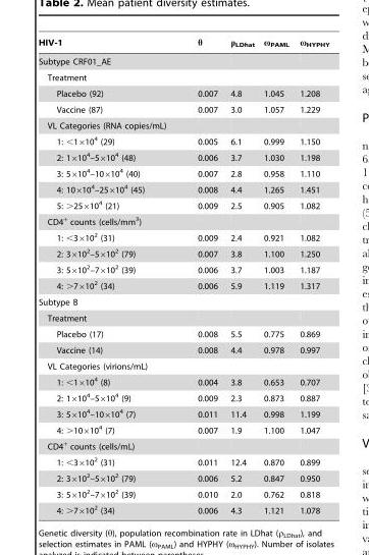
<table><thead><tr><td>HIV-1</td><td>θ</td><td>ρ<sub>LDhat</sub></td><td>ω<sub>PAML</sub></td><td>ω<sub>HYPHY</sub></td></tr></thead><tbody><tr><td colspan="5">Subtype CRF01_AE</td></tr><tr><td colspan="5">Treatment</td></tr><tr><td>Placebo (92)</td><td>0.007</td><td>4.8</td><td>1.045</td><td>1.208</td></tr><tr><td>Vaccine (87)</td><td>0.007</td><td>3.0</td><td>1.057</td><td>1.229</td></tr><tr><td colspan="5">VL Categories (RNA copies/mL)</td></tr><tr><td>1: &lt;1×10<sup>4</sup> (29)</td><td>0.005</td><td>6.1</td><td>0.999</td><td>1.150</td></tr><tr><td>2: 1×10<sup>4</sup>–5×10<sup>4</sup> (48)</td><td>0.006</td><td>3.7</td><td>1.030</td><td>1.198</td></tr><tr><td>3: 5×10<sup>4</sup>–10×10<sup>4</sup> (40)</td><td>0.007</td><td>2.8</td><td>0.958</td><td>1.110</td></tr><tr><td>4: 10×10<sup>4</sup>–25×10<sup>4</sup> (45)</td><td>0.008</td><td>4.4</td><td>1.265</td><td>1.451</td></tr><tr><td>5: &gt;25×10<sup>4</sup> (21)</td><td>0.009</td><td>2.5</td><td>0.905</td><td>1.082</td></tr><tr><td colspan="5">CD4<sup>+</sup> counts (cells/mm<sup>3</sup>)</td></tr><tr><td>1: &lt;3×10<sup>2</sup> (31)</td><td>0.009</td><td>2.4</td><td>0.921</td><td>1.082</td></tr><tr><td>2: 3×10<sup>2</sup>–5×10<sup>2</sup> (79)</td><td>0.007</td><td>3.8</td><td>1.100</td><td>1.250</td></tr><tr><td>3: 5×10<sup>2</sup>–7×10<sup>2</sup> (39)</td><td>0.006</td><td>3.7</td><td>1.003</td><td>1.187</td></tr><tr><td>4: &gt;7×10<sup>2</sup> (34)</td><td>0.006</td><td>5.9</td><td>1.119</td><td>1.317</td></tr><tr><td colspan="5">Subtype B</td></tr><tr><td colspan="5">Treatment</td></tr><tr><td>Placebo (17)</td><td>0.008</td><td>5.5</td><td>0.775</td><td>0.869</td></tr><tr><td>Vaccine (14)</td><td>0.008</td><td>4.4</td><td>0.978</td><td>0.997</td></tr><tr><td colspan="5">VL Categories (virions/mL)</td></tr><tr><td>1: &lt;1×10<sup>4</sup> (8)</td><td>0.004</td><td>3.8</td><td>0.653</td><td>0.707</td></tr><tr><td>2: 1×10<sup>4</sup>–5×10<sup>4</sup> (9)</td><td>0.009</td><td>2.3</td><td>0.873</td><td>0.887</td></tr><tr><td>3: 5×10<sup>4</sup>–10×10<sup>4</sup> (7)</td><td>0.011</td><td>11.4</td><td>0.998</td><td>1.199</td></tr><tr><td>4: &gt;10×10<sup>4</sup> (7)</td><td>0.007</td><td>1.9</td><td>1.100</td><td>1.047</td></tr><tr><td colspan="5">CD4<sup>+</sup> counts (cells/mL)</td></tr><tr><td>1: &lt;3×10<sup>2</sup> (31)</td><td>0.011</td><td>12.4</td><td>0.870</td><td>0.899</td></tr><tr><td>2: 3×10<sup>2</sup>–5×10<sup>2</sup> (79)</td><td>0.006</td><td>5.2</td><td>0.847</td><td>0.950</td></tr><tr><td>3: 5×10<sup>2</sup>–7×10<sup>2</sup> (39)</td><td>0.010</td><td>2.0</td><td>0.762</td><td>0.818</td></tr><tr><td>4: &gt;7×10<sup>2</sup> (34)</td><td>0.006</td><td>4.3</td><td>1.121</td><td>1.078</td></tr></tbody></table>